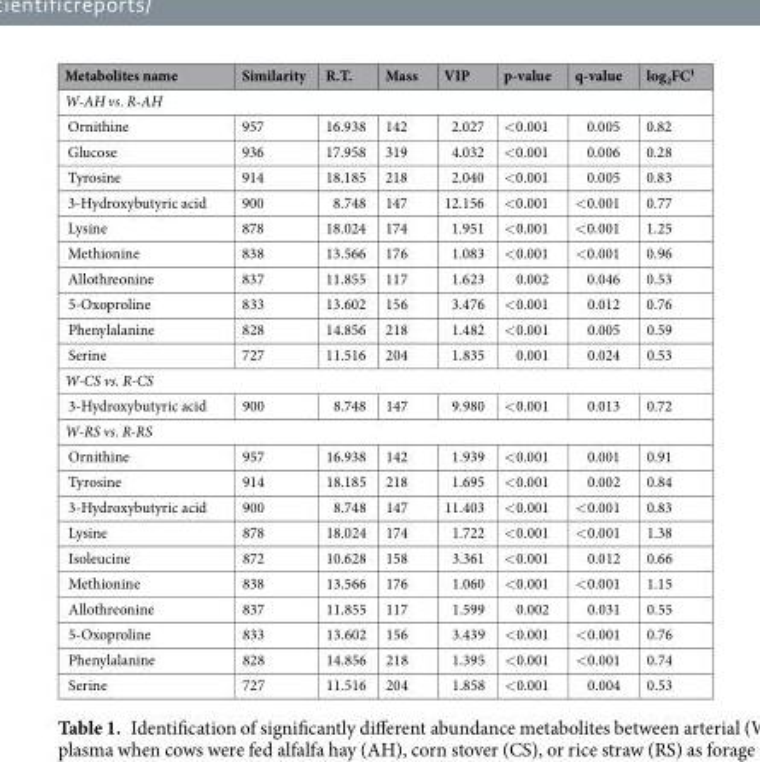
<table><thead><tr><td>Metabolites name</td><td>Similarity</td><td>R.T.</td><td>Mass</td><td>VIP</td><td>p-value</td><td>q-value</td><td>log<sub>2</sub>FC<sup>1</sup></td></tr></thead><tbody><tr><td colspan="8">W-AH vs. R-AH</td></tr><tr><td>Ornithine</td><td>957</td><td>16.938</td><td>142</td><td>2.027</td><td>&lt;0.001</td><td>0.005</td><td>0.82</td></tr><tr><td>Glucose</td><td>936</td><td>17.958</td><td>319</td><td>4.032</td><td>&lt;0.001</td><td>0.006</td><td>0.28</td></tr><tr><td>Tyrosine</td><td>914</td><td>18.185</td><td>218</td><td>2.040</td><td>&lt;0.001</td><td>0.005</td><td>0.83</td></tr><tr><td>3-Hydroxybutyric acid</td><td>900</td><td>8.748</td><td>147</td><td>12.156</td><td>&lt;0.001</td><td>&lt;0.001</td><td>0.77</td></tr><tr><td>Lysine</td><td>878</td><td>18.024</td><td>174</td><td>1.951</td><td>&lt;0.001</td><td>&lt;0.001</td><td>1.25</td></tr><tr><td>Methionine</td><td>838</td><td>13.566</td><td>176</td><td>1.083</td><td>&lt;0.001</td><td>&lt;0.001</td><td>0.96</td></tr><tr><td>Allothreonine</td><td>837</td><td>11.855</td><td>117</td><td>1.623</td><td>0.002</td><td>0.046</td><td>0.53</td></tr><tr><td>5-Oxoproline</td><td>833</td><td>13.602</td><td>156</td><td>3.476</td><td>&lt;0.001</td><td>0.012</td><td>0.76</td></tr><tr><td>Phenylalanine</td><td>828</td><td>14.856</td><td>218</td><td>1.482</td><td>&lt;0.001</td><td>0.005</td><td>0.59</td></tr><tr><td>Serine</td><td>727</td><td>11.516</td><td>204</td><td>1.835</td><td>0.001</td><td>0.024</td><td>0.53</td></tr><tr><td colspan="8">W-CS vs. R-CS</td></tr><tr><td>3-Hydroxybutyric acid</td><td>900</td><td>8.748</td><td>147</td><td>9.980</td><td>&lt;0.001</td><td>0.013</td><td>0.72</td></tr><tr><td colspan="8">W-RS vs. R-RS</td></tr><tr><td>Ornithine</td><td>957</td><td>16.938</td><td>142</td><td>1.939</td><td>&lt;0.001</td><td>0.001</td><td>0.91</td></tr><tr><td>Tyrosine</td><td>914</td><td>18.185</td><td>218</td><td>1.695</td><td>&lt;0.001</td><td>0.002</td><td>0.84</td></tr><tr><td>3-Hydroxybutyric acid</td><td>900</td><td>8.748</td><td>147</td><td>11.403</td><td>&lt;0.001</td><td>&lt;0.001</td><td>0.83</td></tr><tr><td>Lysine</td><td>878</td><td>18.024</td><td>174</td><td>1.722</td><td>&lt;0.001</td><td>&lt;0.001</td><td>1.38</td></tr><tr><td>Isoleucine</td><td>872</td><td>10.628</td><td>158</td><td>3.361</td><td>&lt;0.001</td><td>0.012</td><td>0.66</td></tr><tr><td>Methionine</td><td>838</td><td>13.566</td><td>176</td><td>1.060</td><td>&lt;0.001</td><td>&lt;0.001</td><td>1.15</td></tr><tr><td>Allothreonine</td><td>837</td><td>11.855</td><td>117</td><td>1.599</td><td>0.002</td><td>0.031</td><td>0.55</td></tr><tr><td>5-Oxoproline</td><td>833</td><td>13.602</td><td>156</td><td>3.439</td><td>&lt;0.001</td><td>&lt;0.001</td><td>0.76</td></tr><tr><td>Phenylalanine</td><td>828</td><td>14.856</td><td>218</td><td>1.395</td><td>&lt;0.001</td><td>&lt;0.001</td><td>0.74</td></tr><tr><td>Serine</td><td>727</td><td>11.516</td><td>204</td><td>1.858</td><td>&lt;0.001</td><td>0.004</td><td>0.53</td></tr></tbody></table>